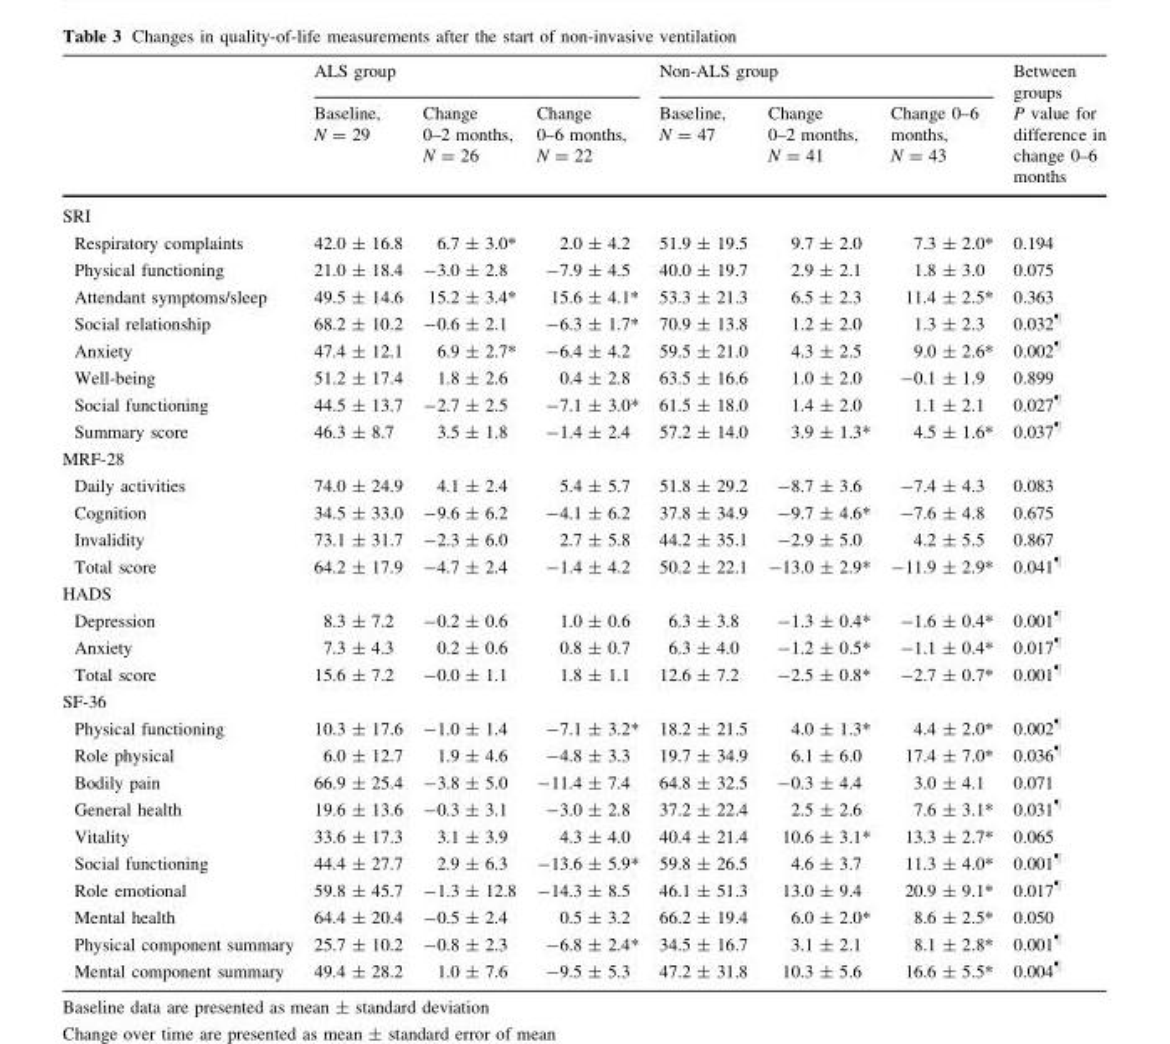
<table><thead><tr><td rowspan="2"></td><td colspan="3">ALS group</td><td colspan="3">Non-ALS group</td><td rowspan="2">Between groups P value for difference in change 0–6 months</td></tr><tr><td>Baseline, N = 29</td><td>Change 0–2 months, N = 26</td><td>Change 0–6 months, N = 22</td><td>Baseline, N = 47</td><td>Change 0–2 months, N = 41</td><td>Change 0–6 months, N = 43</td></tr></thead><tbody><tr><td colspan="8">SRI</td></tr><tr><td>Respiratory complaints</td><td>42.0 ± 16.8</td><td>6.7 ± 3.0*</td><td>2.0 ± 4.2</td><td>51.9 ± 19.5</td><td>9.7 ± 2.0</td><td>7.3 ± 2.0*</td><td>0.194</td></tr><tr><td>Physical functioning</td><td>21.0 ± 18.4</td><td>-3.0 ± 2.8</td><td>-7.9 ± 4.5</td><td>40.0 ± 19.7</td><td>2.9 ± 2.1</td><td>1.8 ± 3.0</td><td>0.075</td></tr><tr><td>Attendant symptoms/sleep</td><td>49.5 ± 14.6</td><td>15.2 ± 3.4*</td><td>15.6 ± 4.1*</td><td>53.3 ± 21.3</td><td>6.5 ± 2.3</td><td>11.4 ± 2.5*</td><td>0.363</td></tr><tr><td>Social relationship</td><td>68.2 ± 10.2</td><td>-0.6 ± 2.1</td><td>-6.3 ± 1.7*</td><td>70.9 ± 13.8</td><td>1.2 ± 2.0</td><td>1.3 ± 2.3</td><td>0.032<sup>¶</sup></td></tr><tr><td>Anxiety</td><td>47.4 ± 12.1</td><td>6.9 ± 2.7*</td><td>-6.4 ± 4.2</td><td>59.5 ± 21.0</td><td>4.3 ± 2.5</td><td>9.0 ± 2.6*</td><td>0.002<sup>¶</sup></td></tr><tr><td>Well-being</td><td>51.2 ± 17.4</td><td>1.8 ± 2.6</td><td>0.4 ± 2.8</td><td>63.5 ± 16.6</td><td>1.0 ± 2.0</td><td>-0.1 ± 1.9</td><td>0.899</td></tr><tr><td>Social functioning</td><td>44.5 ± 13.7</td><td>-2.7 ± 2.5</td><td>-7.1 ± 3.0*</td><td>61.5 ± 18.0</td><td>1.4 ± 2.0</td><td>1.1 ± 2.1</td><td>0.027<sup>¶</sup></td></tr><tr><td>Summary score</td><td>46.3 ± 8.7</td><td>3.5 ± 1.8</td><td>-1.4 ± 2.4</td><td>57.2 ± 14.0</td><td>3.9 ± 1.3*</td><td>4.5 ± 1.6*</td><td>0.037<sup>¶</sup></td></tr><tr><td colspan="8">MRF-28</td></tr><tr><td>Daily activities</td><td>74.0 ± 24.9</td><td>4.1 ± 2.4</td><td>5.4 ± 5.7</td><td>51.8 ± 29.2</td><td>-8.7 ± 3.6</td><td>-7.4 ± 4.3</td><td>0.083</td></tr><tr><td>Cognition</td><td>34.5 ± 33.0</td><td>-9.6 ± 6.2</td><td>-4.1 ± 6.2</td><td>37.8 ± 34.9</td><td>-9.7 ± 4.6*</td><td>-7.6 ± 4.8</td><td>0.675</td></tr><tr><td>Invalidity</td><td>73.1 ± 31.7</td><td>-2.3 ± 6.0</td><td>2.7 ± 5.8</td><td>44.2 ± 35.1</td><td>-2.9 ± 5.0</td><td>4.2 ± 5.5</td><td>0.867</td></tr><tr><td>Total score</td><td>64.2 ± 17.9</td><td>-4.7 ± 2.4</td><td>-1.4 ± 4.2</td><td>50.2 ± 22.1</td><td>-13.0 ± 2.9*</td><td>-11.9 ± 2.9*</td><td>0.041<sup>¶</sup></td></tr><tr><td colspan="8">HADS</td></tr><tr><td>Depression</td><td>8.3 ± 7.2</td><td>-0.2 ± 0.6</td><td>1.0 ± 0.6</td><td>6.3 ± 3.8</td><td>-1.3 ± 0.4*</td><td>-1.6 ± 0.4*</td><td>0.001<sup>¶</sup></td></tr><tr><td>Anxiety</td><td>7.3 ± 4.3</td><td>0.2 ± 0.6</td><td>0.8 ± 0.7</td><td>6.3 ± 4.0</td><td>-1.2 ± 0.5*</td><td>-1.1 ± 0.4*</td><td>0.017<sup>¶</sup></td></tr><tr><td>Total score</td><td>15.6 ± 7.2</td><td>-0.0 ± 1.1</td><td>1.8 ± 1.1</td><td>12.6 ± 7.2</td><td>-2.5 ± 0.8*</td><td>-2.7 ± 0.7*</td><td>0.001<sup>¶</sup></td></tr><tr><td colspan="8">SF-36</td></tr><tr><td>Physical functioning</td><td>10.3 ± 17.6</td><td>-1.0 ± 1.4</td><td>-7.1 ± 3.2*</td><td>18.2 ± 21.5</td><td>4.0 ± 1.3*</td><td>4.4 ± 2.0*</td><td>0.002<sup>¶</sup></td></tr><tr><td>Role physical</td><td>6.0 ± 12.7</td><td>1.9 ± 4.6</td><td>-4.8 ± 3.3</td><td>19.7 ± 34.9</td><td>6.1 ± 6.0</td><td>17.4 ± 7.0*</td><td>0.036<sup>¶</sup></td></tr><tr><td>Bodily pain</td><td>66.9 ± 25.4</td><td>-3.8 ± 5.0</td><td>-11.4 ± 7.4</td><td>64.8 ± 32.5</td><td>-0.3 ± 4.4</td><td>3.0 ± 4.1</td><td>0.071</td></tr><tr><td>General health</td><td>19.6 ± 13.6</td><td>-0.3 ± 3.1</td><td>-3.0 ± 2.8</td><td>37.2 ± 22.4</td><td>2.5 ± 2.6</td><td>7.6 ± 3.1*</td><td>0.031<sup>¶</sup></td></tr><tr><td>Vitality</td><td>33.6 ± 17.3</td><td>3.1 ± 3.9</td><td>4.3 ± 4.0</td><td>40.4 ± 21.4</td><td>10.6 ± 3.1*</td><td>13.3 ± 2.7*</td><td>0.065</td></tr><tr><td>Social functioning</td><td>44.4 ± 27.7</td><td>2.9 ± 6.3</td><td>-13.6 ± 5.9*</td><td>59.8 ± 26.5</td><td>4.6 ± 3.7</td><td>11.3 ± 4.0*</td><td>0.001<sup>¶</sup></td></tr><tr><td>Role emotional</td><td>59.8 ± 45.7</td><td>-1.3 ± 12.8</td><td>-14.3 ± 8.5</td><td>46.1 ± 51.3</td><td>13.0 ± 9.4</td><td>20.9 ± 9.1*</td><td>0.017<sup>¶</sup></td></tr><tr><td>Mental health</td><td>64.4 ± 20.4</td><td>-0.5 ± 2.4</td><td>0.5 ± 3.2</td><td>66.2 ± 19.4</td><td>6.0 ± 2.0*</td><td>8.6 ± 2.5*</td><td>0.050</td></tr><tr><td>Physical component summary</td><td>25.7 ± 10.2</td><td>-0.8 ± 2.3</td><td>-6.8 ± 2.4*</td><td>34.5 ± 16.7</td><td>3.1 ± 2.1</td><td>8.1 ± 2.8*</td><td>0.001<sup>¶</sup></td></tr><tr><td>Mental component summary</td><td>49.4 ± 28.2</td><td>1.0 ± 7.6</td><td>-9.5 ± 5.3</td><td>47.2 ± 31.8</td><td>10.3 ± 5.6</td><td>16.6 ± 5.5*</td><td>0.004<sup>¶</sup></td></tr></tbody></table>